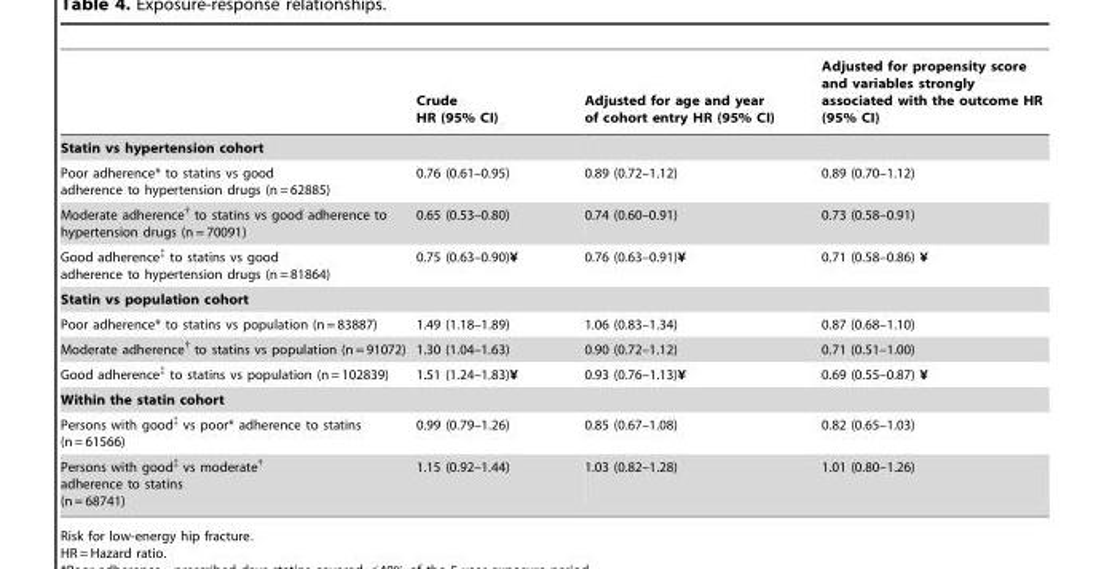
<table><thead><tr><td></td><td>Crude HR (95% CI)</td><td>Adjusted for age and year of cohort entry HR (95% CI)</td><td>Adjusted for propensity score and variables strongly associated with the outcome HR (95% CI)</td></tr></thead><tbody><tr><td colspan="4">Statin vs hypertension cohort</td></tr><tr><td>Poor adherence* to statins vs good adherence to hypertension drugs (n = 62885)</td><td>0.76 (0.61–0.95)</td><td>0.89 (0.72–1.12)</td><td>0.89 (0.70–1.12)</td></tr><tr><td>Moderate adherence† to statins vs good adherence to hypertension drugs (n = 70091)</td><td>0.65 (0.53–0.80)</td><td>0.74 (0.60–0.91)</td><td>0.73 (0.58–0.91)</td></tr><tr><td>Good adherence‡ to statins vs good adherence to hypertension drugs (n = 81864)</td><td>0.75 (0.63–0.90)¥</td><td>0.76 (0.63–0.91)¥</td><td>0.71 (0.58–0.86) ¥</td></tr><tr><td colspan="4">Statin vs population cohort</td></tr><tr><td>Poor adherence* to statins vs population (n = 83887)</td><td>1.49 (1.18–1.89)</td><td>1.06 (0.83–1.34)</td><td>0.87 (0.68–1.10)</td></tr><tr><td>Moderate adherence† to statins vs population (n = 91072)</td><td>1.30 (1.04–1.63)</td><td>0.90 (0.72–1.12)</td><td>0.71 (0.51–1.00)</td></tr><tr><td>Good adherence‡ to statins vs population (n = 102839)</td><td>1.51 (1.24–1.83)¥</td><td>0.93 (0.76–1.13)¥</td><td>0.69 (0.55–0.87) ¥</td></tr><tr><td colspan="4">Within the statin cohort</td></tr><tr><td>Persons with good‡ vs poor* adherence to statins (n = 61566)</td><td>0.99 (0.79–1.26)</td><td>0.85 (0.67–1.08)</td><td>0.82 (0.65–1.03)</td></tr><tr><td>Persons with good‡ vs moderate† adherence to statins (n = 68741)</td><td>1.15 (0.92–1.44)</td><td>1.03 (0.82–1.28)</td><td>1.01 (0.80–1.26)</td></tr></tbody></table>